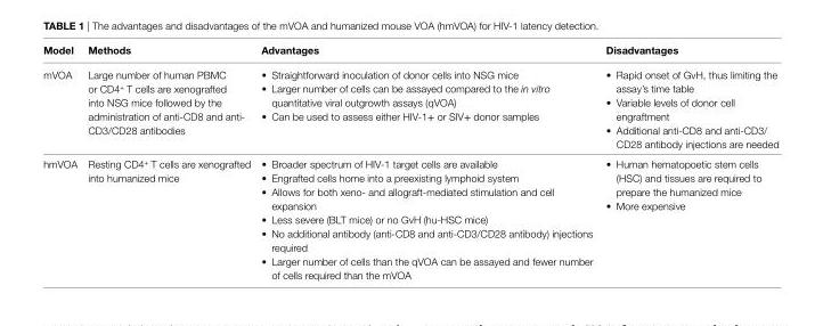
<table><thead><tr><td>Model</td><td>Methods</td><td>Advantages</td><td>Disadvantages</td></tr></thead><tbody><tr><td>mVOA</td><td>Large number of human PBMC or CD4<sup>+</sup> T cells are xenografted into NSG mice followed by the administration of anti-CD8 and anti- CD3/CD28 antibodies</td><td>• Straightforward inoculation of donor cells into NSG mice • Larger number of cells can be assayed compared to the in vitro quantitative viral outgrowth assays (qVOA) • Can be used to assess either HIV-1+ or SIV+ donor samples</td><td>• Rapid onset of GvH, thus limiting the assay’s time table • Variable levels of donor cell engraftment • Additional anti-CD8 and anti-CD3/ CD28 antibody injections are needed</td></tr><tr><td>hmVOA</td><td>Resting CD4+ T cells are xenografted into humanized mice</td><td>• Broader spectrum of HIV-1 target cells are available • Engrafted cells home into a preexisting lymphoid system • Allows for both xeno- and allograft-mediated stimulation and cell expansion • Less severe (BLT mice) or no GvH (hu-HSC mice) • No additional antibody (anti-CD8 and anti-CD3/CD28 antibody) injections required • Larger number of cells than the qVOA can be assayed and fewer number of cells required than the mVOA</td><td>• Human hematopoetic stem cells (HSC) and tissues are required to prepare the humanized mice • More expensive</td></tr></tbody></table>